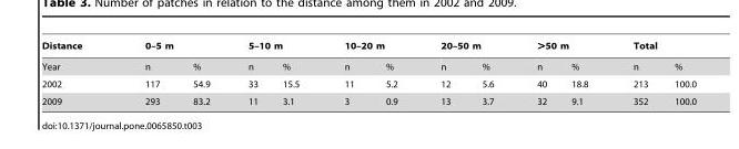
<table><thead><tr><td rowspan="2">Distance Year</td><td colspan="2">0–5 m</td><td colspan="2">5–10 m</td><td colspan="2">10–20 m</td><td colspan="2">20–50 m</td><td colspan="2">&gt;50 m</td><td colspan="2">Total</td></tr><tr><td>n</td><td>%</td><td>n</td><td>%</td><td>n</td><td>%</td><td>n</td><td>%</td><td>n</td><td>%</td><td>n</td><td>%</td></tr></thead><tbody><tr><td>2002</td><td>117</td><td>54.9</td><td>33</td><td>15.5</td><td>11</td><td>5.2</td><td>12</td><td>5.6</td><td>40</td><td>18.8</td><td>213</td><td>100.0</td></tr><tr><td>2009</td><td>293</td><td>83.2</td><td>11</td><td>3.1</td><td>3</td><td>0.9</td><td>13</td><td>3.7</td><td>32</td><td>9.1</td><td>352</td><td>100.0</td></tr></tbody></table>